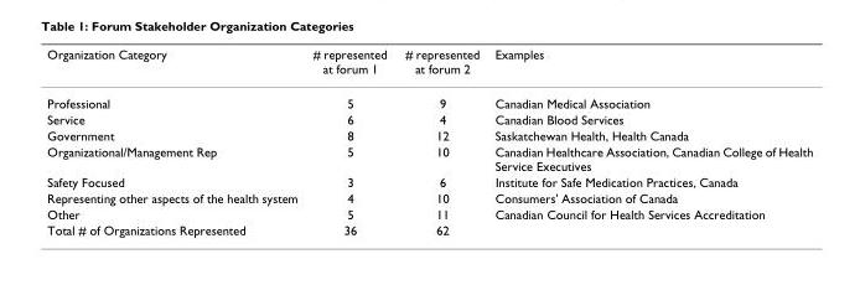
<table><thead><tr><td>Organization Category</td><td># represented at forum 1</td><td># represented at forum 2</td><td>Examples</td></tr></thead><tbody><tr><td>Professional</td><td>5</td><td>9</td><td>Canadian Medical Association</td></tr><tr><td>Service</td><td>6</td><td>4</td><td>Canadian Blood Services</td></tr><tr><td>Government</td><td>8</td><td>12</td><td>Saskatchewan Health, Health Canada</td></tr><tr><td>Organizational/Management Rep</td><td>5</td><td>10</td><td>Canadian Healthcare Association, Canadian College of Health Service Executives</td></tr><tr><td>Safety Focused</td><td>3</td><td>6</td><td>Institute for Safe Medication Practices, Canada</td></tr><tr><td>Representing other aspects of the health system</td><td>4</td><td>10</td><td>Consumers&#x27; Association of Canada</td></tr><tr><td>Other</td><td>5</td><td>11</td><td>Canadian Council for Health Services Accreditation</td></tr><tr><td>Total # of Organizations Represented</td><td>36</td><td>62</td><td></td></tr></tbody></table>